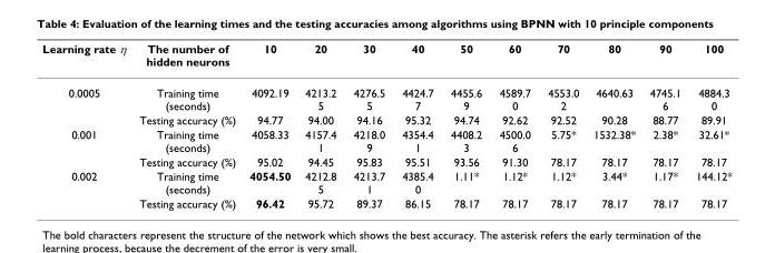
<table><thead><tr><td>Learning rate η</td><td>The number of hidden neurons</td><td>10</td><td>20</td><td>30</td><td>40</td><td>50</td><td>60</td><td>70</td><td>80</td><td>90</td><td>100</td></tr></thead><tbody><tr><td rowspan="2">0.0005</td><td>Training time (seconds)</td><td>4092.19</td><td>4213.2 5</td><td>4276.5 5</td><td>4424.7 7</td><td>4455.6 9</td><td>4589.7 0</td><td>4553.0 2</td><td>4640.63</td><td>4745.1 6</td><td>4884.3 0</td></tr><tr><td>Testing accuracy (%)</td><td>94.77</td><td>94.00</td><td>94.16</td><td>95.32</td><td>94.74</td><td>92.62</td><td>92.52</td><td>90.28</td><td>88.77</td><td>89.91</td></tr><tr><td rowspan="2">0.001</td><td>Training time (seconds)</td><td>4058.33</td><td>4157.4 1</td><td>4218.0 9</td><td>4354.4 1</td><td>4408.2 3</td><td>4500.0 6</td><td>5.75*</td><td>1532.38*</td><td>2.38*</td><td>32.61*</td></tr><tr><td>Testing accuracy (%)</td><td>95.02</td><td>94.45</td><td>95.83</td><td>95.51</td><td>93.56</td><td>91.30</td><td>78.17</td><td>78.17</td><td>78.17</td><td>78.17</td></tr><tr><td rowspan="2">0.002</td><td>Training time (seconds)</td><td>4054.50</td><td>4212.8 5</td><td>4213.7 1</td><td>4385.4 0</td><td>1.11*</td><td>1.12*</td><td>1.12*</td><td>3.44*</td><td>1.17*</td><td>144.12*</td></tr><tr><td>Testing accuracy (%)</td><td>96.42</td><td>95.72</td><td>89.37</td><td>86.15</td><td>78.17</td><td>78.17</td><td>78.17</td><td>78.17</td><td>78.17</td><td>78.17</td></tr></tbody></table>